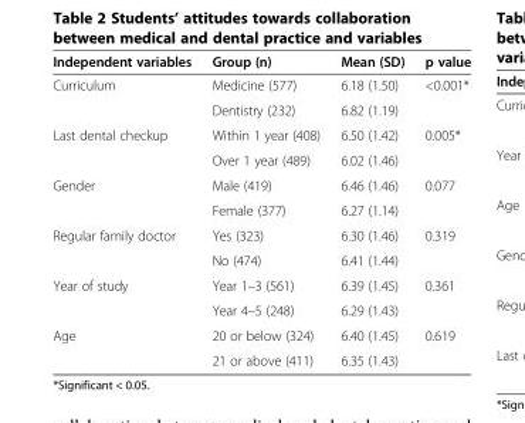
<table><thead><tr><td>Independent variables</td><td>Group (n)</td><td>Mean (SD)</td><td>p value</td></tr></thead><tbody><tr><td rowspan="2">Curriculum</td><td>Medicine (577)</td><td>6.18 (1.50)</td><td>&lt;0.001*</td></tr><tr><td>Dentistry (232)</td><td>6.82 (1.19)</td><td></td></tr><tr><td rowspan="2">Last dental checkup</td><td>Within 1 year (408)</td><td>6.50 (1.42)</td><td>0.005*</td></tr><tr><td>Over 1 year (489)</td><td>6.02 (1.46)</td><td></td></tr><tr><td rowspan="2">Gender</td><td>Male (419)</td><td>6.46 (1.46)</td><td>0.077</td></tr><tr><td>Female (377)</td><td>6.27 (1.14)</td><td></td></tr><tr><td rowspan="2">Regular family doctor</td><td>Yes (323)</td><td>6.30 (1.46)</td><td>0.319</td></tr><tr><td>No (474)</td><td>6.41 (1.44)</td><td></td></tr><tr><td rowspan="2">Year of study</td><td>Year 1–3 (561)</td><td>6.39 (1.45)</td><td>0.361</td></tr><tr><td>Year 4–5 (248)</td><td>6.29 (1.43)</td><td></td></tr><tr><td rowspan="2">Age</td><td>20 or below (324)</td><td>6.40 (1.45)</td><td>0.619</td></tr><tr><td>21 or above (411)</td><td>6.35 (1.43)</td><td></td></tr></tbody></table>